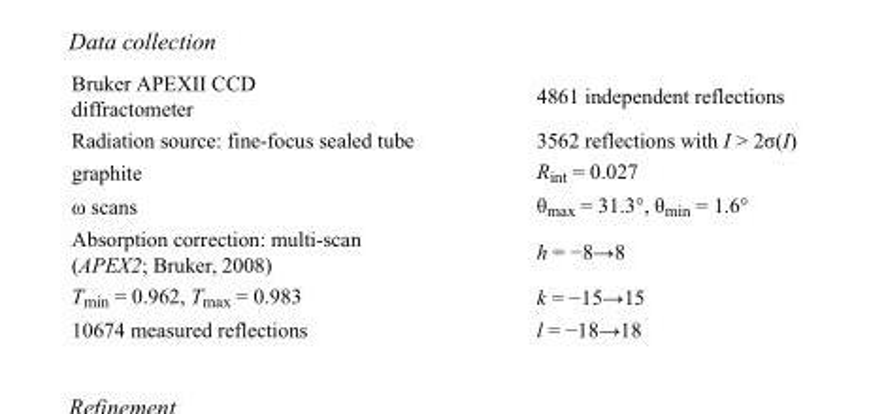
<table><tbody><tr><td>Bruker APEXII CCD diffractometer</td><td>4861 independent reflections</td></tr><tr><td>Radiation source: fine-focus sealed tube</td><td>3562 reflections with I &gt; 2σ(I)</td></tr><tr><td>graphite</td><td>R<sub>int</sub> = 0.027</td></tr><tr><td>ω scans</td><td>θ<sub>max</sub> = 31.3°, θ<sub>min</sub> = 1.6°</td></tr><tr><td>Absorption correction: multi-scan (APEX2; Bruker, 2008)</td><td>h = −8→8</td></tr><tr><td>T<sub>min</sub> = 0.962, T<sub>max</sub> = 0.983</td><td>k = −15→15</td></tr><tr><td>10674 measured reflections</td><td>l = −18→18</td></tr></tbody></table>